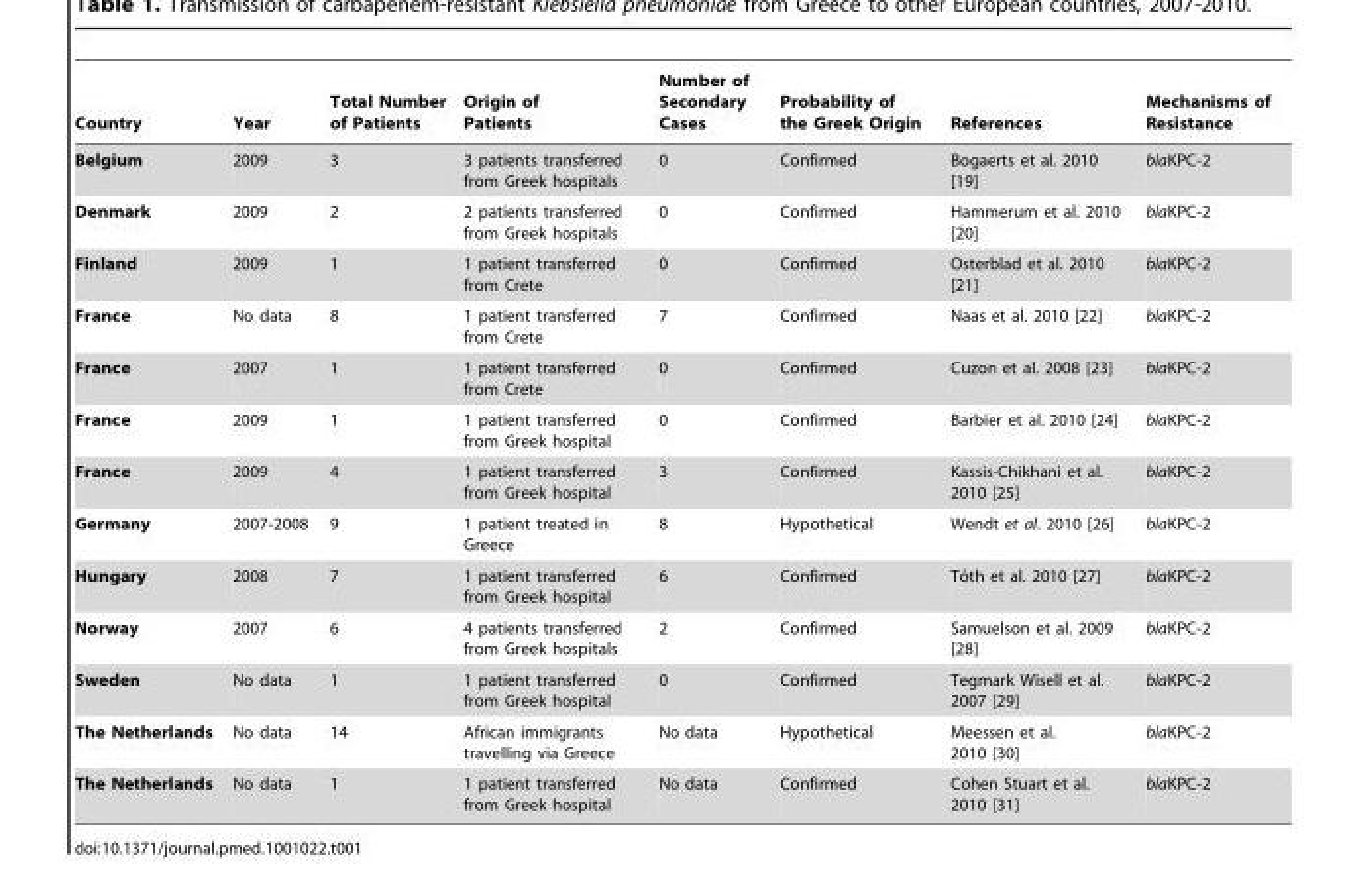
<table><thead><tr><td>Country</td><td>Year</td><td>Total Number of Patients</td><td>Origin of Patients</td><td>Number of Secondary Cases</td><td>Probability of the Greek Origin</td><td>References</td><td>Mechanisms of Resistance</td></tr></thead><tbody><tr><td>Belgium</td><td>2009</td><td>3</td><td>3 patients transferred from Greek hospitals</td><td>0</td><td>Confirmed</td><td>Bogaerts et al. 2010 [19]</td><td>blaKPC-2</td></tr><tr><td>Denmark</td><td>2009</td><td>2</td><td>2 patients transferred from Greek hospitals</td><td>0</td><td>Confirmed</td><td>Hammerum et al. 2010 [20]</td><td>blaKPC-2</td></tr><tr><td>Finland</td><td>2009</td><td>1</td><td>1 patient transferred from Crete</td><td>0</td><td>Confirmed</td><td>Osterblad et al. 2010 [21]</td><td>blaKPC-2</td></tr><tr><td>France</td><td>No data</td><td>8</td><td>1 patient transferred from Crete</td><td>7</td><td>Confirmed</td><td>Naas et al. 2010 [22]</td><td>blaKPC-2</td></tr><tr><td>France</td><td>2007</td><td>1</td><td>1 patient transferred from Crete</td><td>0</td><td>Confirmed</td><td>Cuzon et al. 2008 [23]</td><td>blaKPC-2</td></tr><tr><td>France</td><td>2009</td><td>1</td><td>1 patient transferred from Greek hospital</td><td>0</td><td>Confirmed</td><td>Barbier et al. 2010 [24]</td><td>blaKPC-2</td></tr><tr><td>France</td><td>2009</td><td>4</td><td>1 patient transferred from Greek hospital</td><td>3</td><td>Confirmed</td><td>Kassis-Chikhani et al. 2010 [25]</td><td>blaKPC-2</td></tr><tr><td>Germany</td><td>2007-2008</td><td>9</td><td>1 patient treated in Greece</td><td>8</td><td>Hypothetical</td><td>Wendt et al. 2010 [26]</td><td>blaKPC-2</td></tr><tr><td>Hungary</td><td>2008</td><td>7</td><td>1 patient transferred from Greek hospital</td><td>6</td><td>Confirmed</td><td>To´th et al. 2010 [27]</td><td>blaKPC-2</td></tr><tr><td>Norway</td><td>2007</td><td>6</td><td>4 patients transferred from Greek hospitals</td><td>2</td><td>Confirmed</td><td>Samuelson et al. 2009 [28]</td><td>blaKPC-2</td></tr><tr><td>Sweden</td><td>No data</td><td>1</td><td>1 patient transferred from Greek hospital</td><td>0</td><td>Confirmed</td><td>Tegmark Wisell et al. 2007 [29]</td><td>blaKPC-2</td></tr><tr><td>The Netherlands</td><td>No data</td><td>14</td><td>African immigrants travelling via Greece</td><td>No data</td><td>Hypothetical</td><td>Meessen et al. 2010 [30]</td><td>blaKPC-2</td></tr><tr><td>The Netherlands</td><td>No data</td><td>1</td><td>1 patient transferred from Greek hospital</td><td>No data</td><td>Confirmed</td><td>Cohen Stuart et al. 2010 [31]</td><td>blaKPC-2</td></tr></tbody></table>